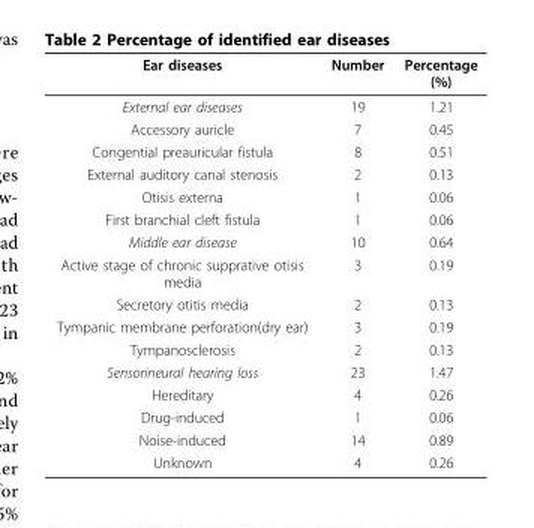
<table><thead><tr><td>Ear diseases</td><td>Number</td><td>Percentage (%)</td></tr></thead><tbody><tr><td>External ear diseases</td><td>19</td><td>1.21</td></tr><tr><td>Accessory auricle</td><td>7</td><td>0.45</td></tr><tr><td>Congential preauricular fistula</td><td>8</td><td>0.51</td></tr><tr><td>External auditory canal stenosis</td><td>2</td><td>0.13</td></tr><tr><td>Otisis externa</td><td>1</td><td>0.06</td></tr><tr><td>First branchial cleft fistula</td><td>1</td><td>0.06</td></tr><tr><td>Middle ear disease</td><td>10</td><td>0.64</td></tr><tr><td>Active stage of chronic supprative otisis media</td><td>3</td><td>0.19</td></tr><tr><td>Secretory otitis media</td><td>2</td><td>0.13</td></tr><tr><td>Tympanic membrane perforation(dry ear)</td><td>3</td><td>0.19</td></tr><tr><td>Tympanosclerosis</td><td>2</td><td>0.13</td></tr><tr><td>Sensorineural hearing loss</td><td>23</td><td>1.47</td></tr><tr><td>Hereditary</td><td>4</td><td>0.26</td></tr><tr><td>Drug-induced</td><td>1</td><td>0.06</td></tr><tr><td>Noise-induced</td><td>14</td><td>0.89</td></tr><tr><td>Unknown</td><td>4</td><td>0.26</td></tr></tbody></table>